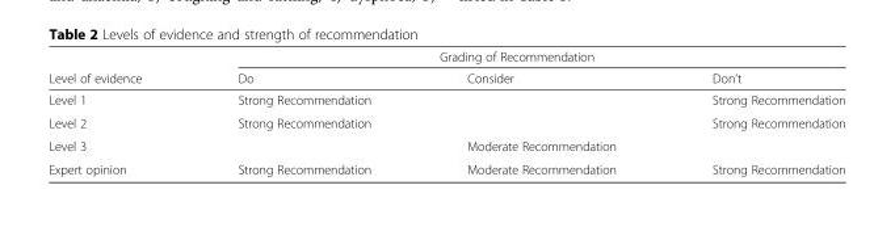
<table><thead><tr><td rowspan="2">Level of evidence</td><td colspan="3">Grading of Recommendation</td></tr><tr><td>Do</td><td>Consider</td><td>Don’t</td></tr></thead><tbody><tr><td>Level 1</td><td>Strong Recommendation</td><td></td><td>Strong Recommendation</td></tr><tr><td>Level 2</td><td>Strong Recommendation</td><td></td><td>Strong Recommendation</td></tr><tr><td>Level 3</td><td></td><td>Moderate Recommendation</td><td></td></tr><tr><td>Expert opinion</td><td>Strong Recommendation</td><td>Moderate Recommendation</td><td>Strong Recommendation</td></tr></tbody></table>